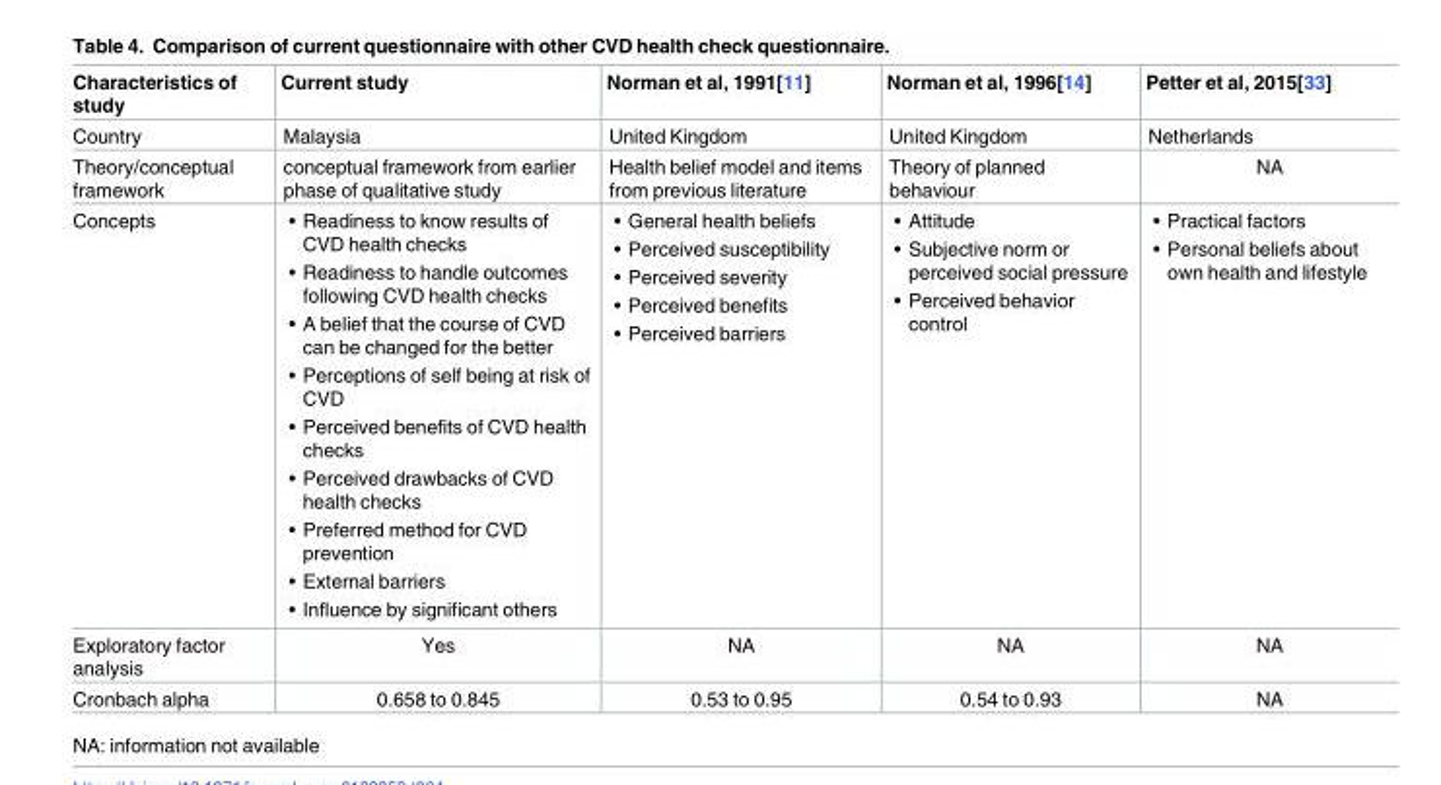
<table><thead><tr><td>Characteristics of study</td><td>Current study</td><td>Norman et al, 1991[11]</td><td>Norman et al, 1996[14]</td><td>Petter et al, 2015[33]</td></tr></thead><tbody><tr><td>Country</td><td>Malaysia</td><td>United Kingdom</td><td>United Kingdom</td><td>Netherlands</td></tr><tr><td>Theory/conceptual framework</td><td>conceptual framework from earlier phase of qualitative study</td><td>Health belief model and items from previous literature</td><td>Theory of planned behaviour</td><td>NA</td></tr><tr><td>Concepts</td><td>• Readiness to know results of CVD health checks • Readiness to handle outcomes following CVD health checks • A belief that the course of CVD can be changed for the better • Perceptions of self being at risk of CVD • Perceived benefits of CVD health checks • Perceived drawbacks of CVD health checks • Preferred method for CVD prevention • External barriers • Influence by significant others</td><td>• General health beliefs • Perceived susceptibility • Perceived severity • Perceived benefits • Perceived barriers</td><td>• Attitude • Subjective norm or perceived social pressure • Perceived behavior control</td><td>• Practical factors • Personal beliefs about own health and lifestyle</td></tr><tr><td>Exploratory factor analysis</td><td>Yes</td><td>NA</td><td>NA</td><td>NA</td></tr><tr><td>Cronbach alpha</td><td>0.658 to 0.845</td><td>0.53 to 0.95</td><td>0.54 to 0.93</td><td>NA</td></tr></tbody></table>